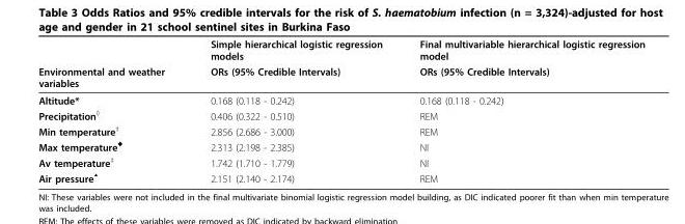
<table><thead><tr><td rowspan="2">Environmental and weather variables</td><td rowspan="2">Simple hierarchical logistic regression models ORs (95% Credible Intervals)</td><td rowspan="2">Final multivariable hierarchical logistic regression model ORs (95% Credible Intervals)</td></tr><tr></tr></thead><tbody><tr><td>Altitude*</td><td>0.168 (0.118 - 0.242)</td><td>0.168 (0.118 - 0.242)</td></tr><tr><td>Precipitation<sup>◊</sup></td><td>0.406 (0.322 - 0.510)</td><td>REM</td></tr><tr><td>Min temperature<sup>‡</sup></td><td>2.856 (2.686 - 3.000)</td><td>REM</td></tr><tr><td>Max temperature<sup>♦</sup></td><td>2.313 (2.198 - 2.385)</td><td>NI</td></tr><tr><td>Av temperature<sup>‡</sup></td><td>1.742 (1.710 - 1.779)</td><td>NI</td></tr><tr><td>Air pressure<sup>▲</sup></td><td>2.151 (2.140 - 2.174)</td><td>REM</td></tr></tbody></table>